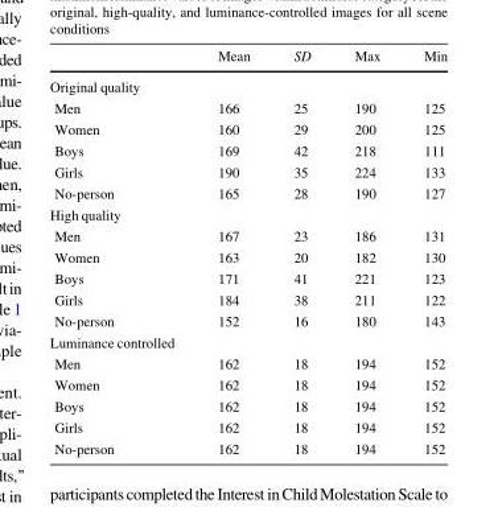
<table><thead><tr><td></td><td>Mean</td><td>SD</td><td>Max</td><td>Min</td></tr></thead><tbody><tr><td colspan="5">Original quality</td></tr><tr><td>Men</td><td>166</td><td>25</td><td>190</td><td>125</td></tr><tr><td>Women</td><td>160</td><td>29</td><td>200</td><td>125</td></tr><tr><td>Boys</td><td>169</td><td>42</td><td>218</td><td>111</td></tr><tr><td>Girls</td><td>190</td><td>35</td><td>224</td><td>133</td></tr><tr><td>No-person</td><td>165</td><td>28</td><td>190</td><td>127</td></tr><tr><td colspan="5">High quality</td></tr><tr><td>Men</td><td>167</td><td>23</td><td>186</td><td>131</td></tr><tr><td>Women</td><td>163</td><td>20</td><td>182</td><td>130</td></tr><tr><td>Boys</td><td>171</td><td>41</td><td>221</td><td>123</td></tr><tr><td>Girls</td><td>184</td><td>38</td><td>211</td><td>122</td></tr><tr><td>No-person</td><td>152</td><td>16</td><td>180</td><td>143</td></tr><tr><td colspan="5">Luminance controlled</td></tr><tr><td>Men</td><td>162</td><td>18</td><td>194</td><td>152</td></tr><tr><td>Women</td><td>162</td><td>18</td><td>194</td><td>152</td></tr><tr><td>Boys</td><td>162</td><td>18</td><td>194</td><td>152</td></tr><tr><td>Girls</td><td>162</td><td>18</td><td>194</td><td>152</td></tr><tr><td>No-person</td><td>162</td><td>18</td><td>194</td><td>152</td></tr></tbody></table>